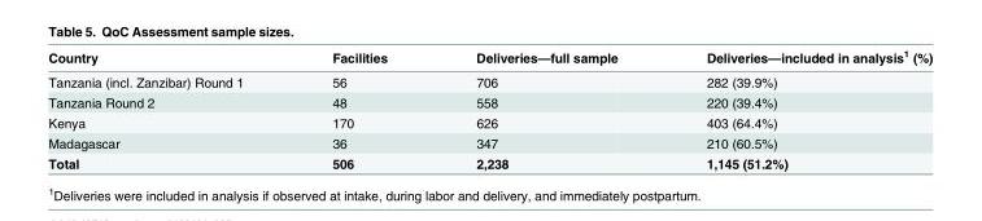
<table><thead><tr><td>Country</td><td>Facilities</td><td>Deliveries—full sample</td><td>Deliveries—included in analysis<sup>1</sup> (%)</td></tr></thead><tbody><tr><td>Tanzania (incl. Zanzibar) Round 1</td><td>56</td><td>706</td><td>282 (39.9%)</td></tr><tr><td>Tanzania Round 2</td><td>48</td><td>558</td><td>220 (39.4%)</td></tr><tr><td>Kenya</td><td>170</td><td>626</td><td>403 (64.4%)</td></tr><tr><td>Madagascar</td><td>36</td><td>347</td><td>210 (60.5%)</td></tr><tr><td>Total</td><td>506</td><td>2,238</td><td>1,145 (51.2%)</td></tr></tbody></table>